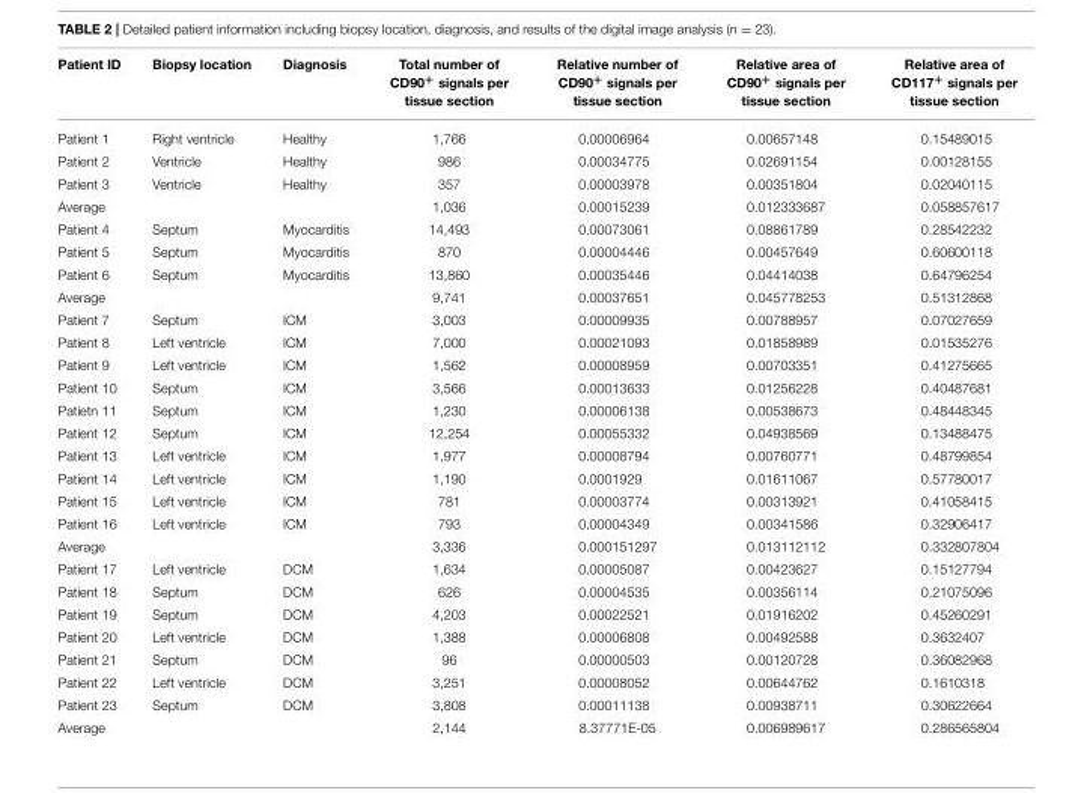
<table><thead><tr><td>Patient ID</td><td>Biopsy location</td><td>Diagnosis</td><td>Total number of CD90<sup>+</sup> signals per tissue section</td><td>Relative number of CD90<sup>+</sup> signals per tissue section</td><td>Relative area of CD90<sup>+</sup> signals per tissue section</td><td>Relative area of CD117<sup>+</sup> signals per tissue section</td></tr></thead><tbody><tr><td>Patient 1</td><td>Right ventricle</td><td>Healthy</td><td>1,766</td><td>0.00006964</td><td>0.00657148</td><td>0.15489015</td></tr><tr><td>Patient 2</td><td>Ventricle</td><td>Healthy</td><td>986</td><td>0.00034775</td><td>0.02691154</td><td>0.00128155</td></tr><tr><td>Patient 3</td><td>Ventricle</td><td>Healthy</td><td>357</td><td>0.00003978</td><td>0.00351804</td><td>0.02040115</td></tr><tr><td>Average</td><td></td><td></td><td>1,036</td><td>0.00015239</td><td>0.012333687</td><td>0.058857617</td></tr><tr><td>Patient 4</td><td>Septum</td><td>Myocarditis</td><td>14,493</td><td>0.00073061</td><td>0.08861789</td><td>0.28542232</td></tr><tr><td>Patient 5</td><td>Septum</td><td>Myocarditis</td><td>870</td><td>0.00004446</td><td>0.00457649</td><td>0.60600118</td></tr><tr><td>Patient 6</td><td>Septum</td><td>Myocarditis</td><td>13,860</td><td>0.00035446</td><td>0.04414038</td><td>0.64796254</td></tr><tr><td>Average</td><td></td><td></td><td>9,741</td><td>0.00037651</td><td>0.045778253</td><td>0.51312868</td></tr><tr><td>Patient 7</td><td>Septum</td><td>ICM</td><td>3,003</td><td>0.00009935</td><td>0.00788957</td><td>0.07027659</td></tr><tr><td>Patient 8</td><td>Left ventricle</td><td>ICM</td><td>7,000</td><td>0.00021093</td><td>0.01858989</td><td>0.01535276</td></tr><tr><td>Patient 9</td><td>Left ventricle</td><td>ICM</td><td>1,562</td><td>0.00008959</td><td>0.00703351</td><td>0.41275665</td></tr><tr><td>Patient 10</td><td>Septum</td><td>ICM</td><td>3,566</td><td>0.00013633</td><td>0.01256228</td><td>0.40487681</td></tr><tr><td>Patietn 11</td><td>Septum</td><td>ICM</td><td>1,230</td><td>0.00006138</td><td>0.00538673</td><td>0.48448345</td></tr><tr><td>Patient 12</td><td>Septum</td><td>ICM</td><td>12,254</td><td>0.00055332</td><td>0.04938569</td><td>0.13488475</td></tr><tr><td>Patient 13</td><td>Left ventricle</td><td>ICM</td><td>1,977</td><td>0.00008794</td><td>0.00760771</td><td>0.48799854</td></tr><tr><td>Patient 14</td><td>Left ventricle</td><td>ICM</td><td>1,190</td><td>0.0001929</td><td>0.01611067</td><td>0.57780017</td></tr><tr><td>Patient 15</td><td>Left ventricle</td><td>ICM</td><td>781</td><td>0.00003774</td><td>0.00313921</td><td>0.41058415</td></tr><tr><td>Patient 16</td><td>Left ventricle</td><td>ICM</td><td>793</td><td>0.00004349</td><td>0.00341586</td><td>0.32906417</td></tr><tr><td>Average</td><td></td><td></td><td>3,336</td><td>0.000151297</td><td>0.013112112</td><td>0.332807804</td></tr><tr><td>Patient 17</td><td>Left ventricle</td><td>DCM</td><td>1,634</td><td>0.00005087</td><td>0.00423627</td><td>0.15127794</td></tr><tr><td>Patient 18</td><td>Septum</td><td>DCM</td><td>626</td><td>0.00004535</td><td>0.00356114</td><td>0.21075096</td></tr><tr><td>Patient 19</td><td>Septum</td><td>DCM</td><td>4,203</td><td>0.00022521</td><td>0.01916202</td><td>0.45260291</td></tr><tr><td>Patient 20</td><td>Left ventricle</td><td>DCM</td><td>1,388</td><td>0.00006808</td><td>0.00492588</td><td>0.3632407</td></tr><tr><td>Patient 21</td><td>Septum</td><td>DCM</td><td>96</td><td>0.00000503</td><td>0.00120728</td><td>0.36082968</td></tr><tr><td>Patient 22</td><td>Left ventricle</td><td>DCM</td><td>3,251</td><td>0.00008052</td><td>0.00644762</td><td>0.1610318</td></tr><tr><td>Patient 23</td><td>Septum</td><td>DCM</td><td>3,808</td><td>0.00011138</td><td>0.00938711</td><td>0.30622664</td></tr><tr><td>Average</td><td></td><td></td><td>2,144</td><td>8.37771E-05</td><td>0.006989617</td><td>0.286565804</td></tr></tbody></table>